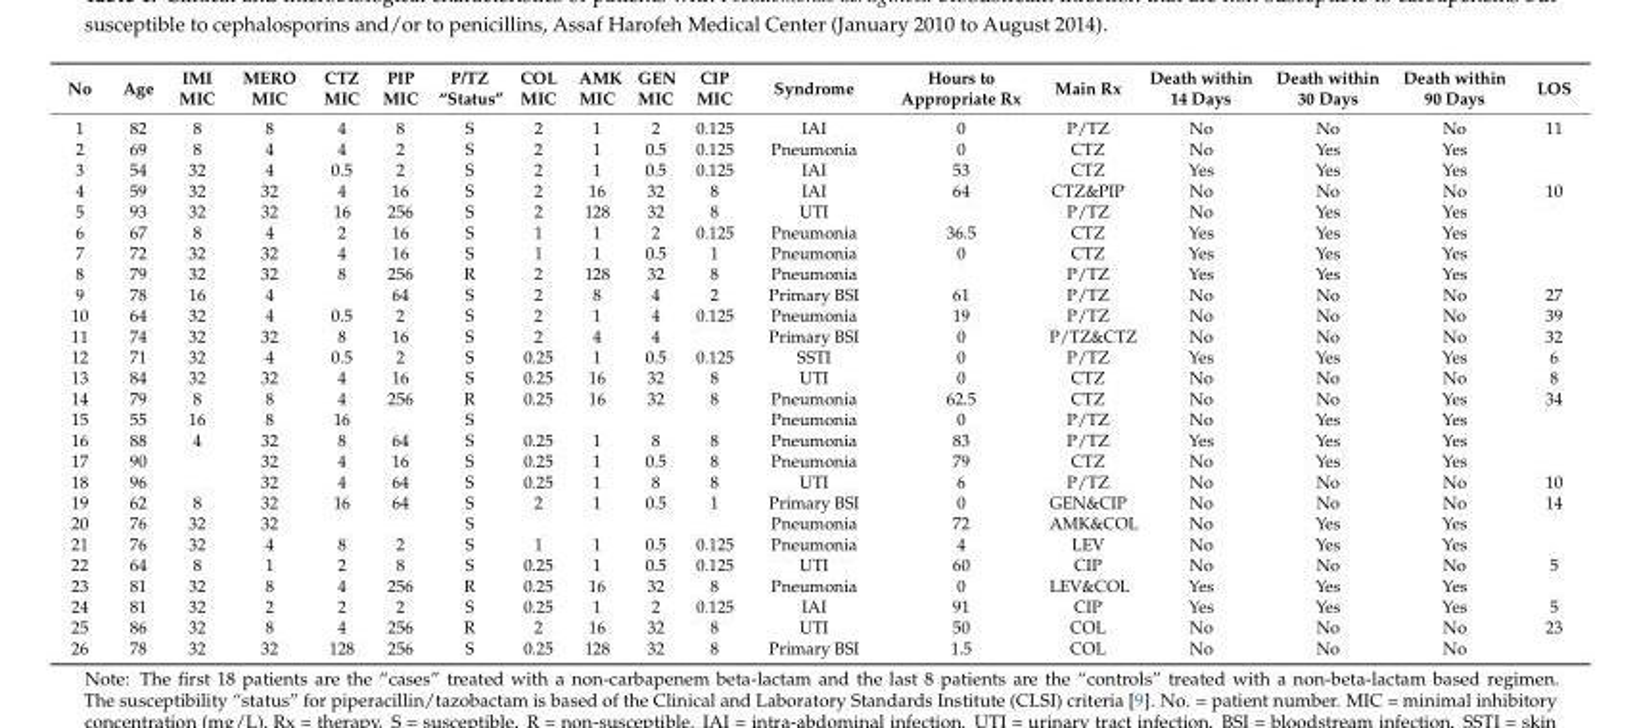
<table><thead><tr><td>No</td><td>Age</td><td>IMI MIC</td><td>MERO MIC</td><td>CTZ MIC</td><td>PIP MIC</td><td>P/TZ “Status”</td><td>COL MIC</td><td>AMK MIC</td><td>GEN MIC</td><td>CIP MIC</td><td>Syndrome</td><td>Hours to Appropriate Rx</td><td>Main Rx</td><td>Death within 14 Days</td><td>Death within 30 Days</td><td>Death within 90 Days</td><td>LOS</td></tr></thead><tbody><tr><td>1</td><td>82</td><td>8</td><td>8</td><td>4</td><td>8</td><td>S</td><td>2</td><td>1</td><td>2</td><td>0.125</td><td>IAI</td><td>0</td><td>P/TZ</td><td>No</td><td>No</td><td>No</td><td>11</td></tr><tr><td>2</td><td>69</td><td>8</td><td>4</td><td>4</td><td>2</td><td>S</td><td>2</td><td>1</td><td>0.5</td><td>0.125</td><td>Pneumonia</td><td>0</td><td>CTZ</td><td>No</td><td>Yes</td><td>Yes</td><td></td></tr><tr><td>3</td><td>54</td><td>32</td><td>4</td><td>0.5</td><td>2</td><td>S</td><td>2</td><td>1</td><td>0.5</td><td>0.125</td><td>IAI</td><td>53</td><td>CTZ</td><td>Yes</td><td>Yes</td><td>Yes</td><td></td></tr><tr><td>4</td><td>59</td><td>32</td><td>32</td><td>4</td><td>16</td><td>S</td><td>2</td><td>16</td><td>32</td><td>8</td><td>IAI</td><td>64</td><td>CTZ&amp;PIP</td><td>No</td><td>No</td><td>No</td><td>10</td></tr><tr><td>5</td><td>93</td><td>32</td><td>32</td><td>16</td><td>256</td><td>S</td><td>2</td><td>128</td><td>32</td><td>8</td><td>UTI</td><td></td><td>P/TZ</td><td>No</td><td>Yes</td><td>Yes</td><td></td></tr><tr><td>6</td><td>67</td><td>8</td><td>4</td><td>2</td><td>16</td><td>S</td><td>1</td><td>1</td><td>2</td><td>0.125</td><td>Pneumonia</td><td>36.5</td><td>CTZ</td><td>Yes</td><td>Yes</td><td>Yes</td><td></td></tr><tr><td>7</td><td>72</td><td>32</td><td>32</td><td>4</td><td>16</td><td>S</td><td>1</td><td>1</td><td>0.5</td><td>1</td><td>Pneumonia</td><td>0</td><td>CTZ</td><td>Yes</td><td>Yes</td><td>Yes</td><td></td></tr><tr><td>8</td><td>79</td><td>32</td><td>32</td><td>8</td><td>256</td><td>R</td><td>2</td><td>128</td><td>32</td><td>8</td><td>Pneumonia</td><td></td><td>P/TZ</td><td>Yes</td><td>Yes</td><td>Yes</td><td></td></tr><tr><td>9</td><td>78</td><td>16</td><td>4</td><td></td><td>64</td><td>S</td><td>2</td><td>8</td><td>4</td><td>2</td><td>Primary BSI</td><td>61</td><td>P/TZ</td><td>No</td><td>No</td><td>No</td><td>27</td></tr><tr><td>10</td><td>64</td><td>32</td><td>4</td><td>0.5</td><td>2</td><td>S</td><td>2</td><td>1</td><td>4</td><td>0.125</td><td>Pneumonia</td><td>19</td><td>P/TZ</td><td>No</td><td>No</td><td>No</td><td>39</td></tr><tr><td>11</td><td>74</td><td>32</td><td>32</td><td>8</td><td>16</td><td>S</td><td>2</td><td>4</td><td>4</td><td></td><td>Primary BSI</td><td>0</td><td>P/TZ&amp;CTZ</td><td>No</td><td>No</td><td>No</td><td>32</td></tr><tr><td>12</td><td>71</td><td>32</td><td>4</td><td>0.5</td><td>2</td><td>S</td><td>0.25</td><td>1</td><td>0.5</td><td>0.125</td><td>SSTI</td><td>0</td><td>P/TZ</td><td>Yes</td><td>Yes</td><td>Yes</td><td>6</td></tr><tr><td>13</td><td>84</td><td>32</td><td>32</td><td>4</td><td>16</td><td>S</td><td>0.25</td><td>16</td><td>32</td><td>8</td><td>UTI</td><td>0</td><td>CTZ</td><td>No</td><td>No</td><td>No</td><td>8</td></tr><tr><td>14</td><td>79</td><td>8</td><td>8</td><td>4</td><td>256</td><td>R</td><td>0.25</td><td>16</td><td>32</td><td>8</td><td>Pneumonia</td><td>62.5</td><td>CTZ</td><td>No</td><td>No</td><td>Yes</td><td>34</td></tr><tr><td>15</td><td>55</td><td>16</td><td>8</td><td>16</td><td></td><td>S</td><td></td><td></td><td></td><td></td><td>Pneumonia</td><td>0</td><td>P/TZ</td><td>No</td><td>Yes</td><td>Yes</td><td></td></tr><tr><td>16</td><td>88</td><td>4</td><td>32</td><td>8</td><td>64</td><td>S</td><td>0.25</td><td>1</td><td>8</td><td>8</td><td>Pneumonia</td><td>83</td><td>P/TZ</td><td>Yes</td><td>Yes</td><td>Yes</td><td></td></tr><tr><td>17</td><td>90</td><td></td><td>32</td><td>4</td><td>16</td><td>S</td><td>0.25</td><td>1</td><td>0.5</td><td>8</td><td>Pneumonia</td><td>79</td><td>CTZ</td><td>No</td><td>Yes</td><td>Yes</td><td></td></tr><tr><td>18</td><td>96</td><td></td><td>32</td><td>4</td><td>64</td><td>S</td><td>0.25</td><td>1</td><td>8</td><td>8</td><td>UTI</td><td>6</td><td>P/TZ</td><td>No</td><td>No</td><td>No</td><td>10</td></tr><tr><td>19</td><td>62</td><td>8</td><td>32</td><td>16</td><td>64</td><td>S</td><td>2</td><td>1</td><td>0.5</td><td>1</td><td>Primary BSI</td><td>0</td><td>GEN&amp;CIP</td><td>No</td><td>No</td><td>No</td><td>14</td></tr><tr><td>20</td><td>76</td><td>32</td><td>32</td><td></td><td></td><td>S</td><td></td><td></td><td></td><td></td><td>Pneumonia</td><td>72</td><td>AMK&amp;COL</td><td>No</td><td>Yes</td><td>Yes</td><td></td></tr><tr><td>21</td><td>76</td><td>32</td><td>4</td><td>8</td><td>2</td><td>S</td><td>1</td><td>1</td><td>0.5</td><td>0.125</td><td>Pneumonia</td><td>4</td><td>LEV</td><td>No</td><td>Yes</td><td>Yes</td><td></td></tr><tr><td>22</td><td>64</td><td>8</td><td>1</td><td>2</td><td>8</td><td>S</td><td>0.25</td><td>1</td><td>0.5</td><td>0.125</td><td>UTI</td><td>60</td><td>CIP</td><td>No</td><td>No</td><td>No</td><td>5</td></tr><tr><td>23</td><td>81</td><td>32</td><td>8</td><td>4</td><td>256</td><td>R</td><td>0.25</td><td>16</td><td>32</td><td>8</td><td>Pneumonia</td><td>0</td><td>LEV&amp;COL</td><td>Yes</td><td>Yes</td><td>Yes</td><td></td></tr><tr><td>24</td><td>81</td><td>32</td><td>2</td><td>2</td><td>2</td><td>S</td><td>0.25</td><td>1</td><td>2</td><td>0.125</td><td>IAI</td><td>91</td><td>CIP</td><td>Yes</td><td>Yes</td><td>Yes</td><td>5</td></tr><tr><td>25</td><td>86</td><td>32</td><td>8</td><td>4</td><td>256</td><td>R</td><td>2</td><td>16</td><td>32</td><td>8</td><td>UTI</td><td>50</td><td>COL</td><td>No</td><td>No</td><td>No</td><td>23</td></tr><tr><td>26</td><td>78</td><td>32</td><td>32</td><td>128</td><td>256</td><td>S</td><td>0.25</td><td>128</td><td>32</td><td>8</td><td>Primary BSI</td><td>1.5</td><td>COL</td><td>No</td><td>No</td><td>No</td><td></td></tr></tbody></table>